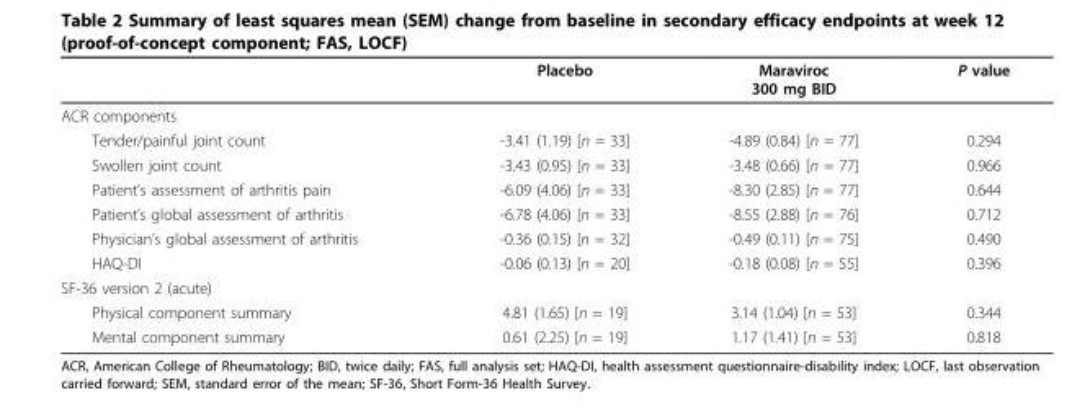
<table><thead><tr><td></td><td>Placebo</td><td>Maraviroc 300 mg BID</td><td>P value</td></tr></thead><tbody><tr><td colspan="4">ACR components</td></tr><tr><td>Tender/painful joint count</td><td>-3.41 (1.19) [n = 33]</td><td>-4.89 (0.84) [n = 77]</td><td>0.294</td></tr><tr><td>Swollen joint count</td><td>-3.43 (0.95) [n = 33]</td><td>-3.48 (0.66) [n = 77]</td><td>0.966</td></tr><tr><td>Patient’s assessment of arthritis pain</td><td>-6.09 (4.06) [n = 33]</td><td>-8.30 (2.85) [n = 77]</td><td>0.644</td></tr><tr><td>Patient’s global assessment of arthritis</td><td>-6.78 (4.06) [n = 33]</td><td>-8.55 (2.88) [n = 76]</td><td>0.712</td></tr><tr><td>Physician’s global assessment of arthritis</td><td>-0.36 (0.15) [n = 32]</td><td>-0.49 (0.11) [n = 75]</td><td>0.490</td></tr><tr><td>HAQ-DI</td><td>-0.06 (0.13) [n = 20]</td><td>-0.18 (0.08) [n = 55]</td><td>0.396</td></tr><tr><td colspan="4">SF-36 version 2 (acute)</td></tr><tr><td>Physical component summary</td><td>4.81 (1.65) [n = 19]</td><td>3.14 (1.04) [n = 53]</td><td>0.344</td></tr><tr><td>Mental component summary</td><td>0.61 (2.25) [n = 19]</td><td>1.17 (1.41) [n = 53]</td><td>0.818</td></tr></tbody></table>